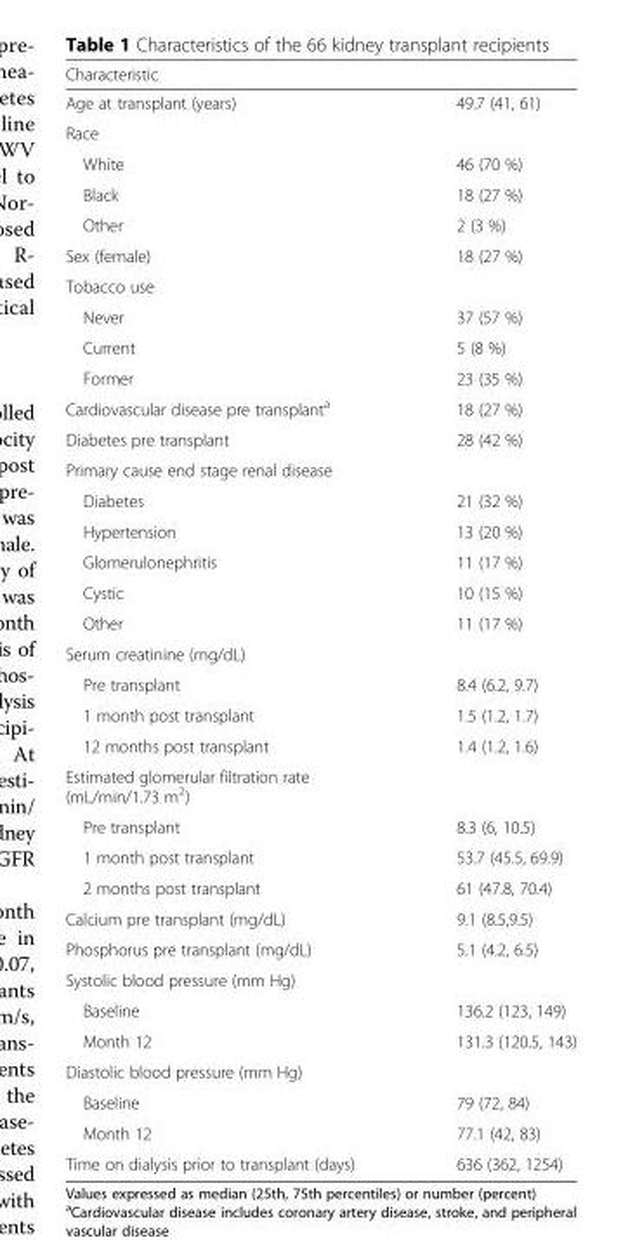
<table><thead><tr><td>Characteristic</td><td></td></tr></thead><tbody><tr><td>Age at transplant (years)</td><td>49.7 (41, 61)</td></tr><tr><td colspan="2">Race</td></tr><tr><td>White</td><td>46 (70 %)</td></tr><tr><td>Black</td><td>18 (27 %)</td></tr><tr><td>Other</td><td>2 (3 %)</td></tr><tr><td>Sex (female)</td><td>18 (27 %)</td></tr><tr><td colspan="2">Tobacco use</td></tr><tr><td>Never</td><td>37 (57 %)</td></tr><tr><td>Current</td><td>5 (8 %)</td></tr><tr><td>Former</td><td>23 (35 %)</td></tr><tr><td>Cardiovascular disease pre transplant<sup>a</sup></td><td>18 (27 %)</td></tr><tr><td>Diabetes pre transplant</td><td>28 (42 %)</td></tr><tr><td colspan="2">Primary cause end stage renal disease</td></tr><tr><td>Diabetes</td><td>21 (32 %)</td></tr><tr><td>Hypertension</td><td>13 (20 %)</td></tr><tr><td>Glomerulonephritis</td><td>11 (17 %)</td></tr><tr><td>Cystic</td><td>10 (15 %)</td></tr><tr><td>Other</td><td>11 (17 %)</td></tr><tr><td colspan="2">Serum creatinine (mg/dL)</td></tr><tr><td>Pre transplant</td><td>8.4 (6.2, 9.7)</td></tr><tr><td>1 month post transplant</td><td>1.5 (1.2, 1.7)</td></tr><tr><td>12 months post transplant</td><td>1.4 (1.2, 1.6)</td></tr><tr><td colspan="2">Estimated glomerular filtration rate (mL/min/1.73 m<sup>2</sup>)</td></tr><tr><td>Pre transplant</td><td>8.3 (6, 10.5)</td></tr><tr><td>1 month post transplant</td><td>53.7 (45.5, 69.9)</td></tr><tr><td>2 months post transplant</td><td>61 (47.8, 70.4)</td></tr><tr><td>Calcium pre transplant (mg/dL)</td><td>9.1 (8.5,9.5)</td></tr><tr><td>Phosphorus pre transplant (mg/dL)</td><td>5.1 (4.2, 6.5)</td></tr><tr><td colspan="2">Systolic blood pressure (mm Hg)</td></tr><tr><td>Baseline</td><td>136.2 (123, 149)</td></tr><tr><td>Month 12</td><td>131.3 (120.5, 143)</td></tr><tr><td colspan="2">Diastolic blood pressure (mm Hg)</td></tr><tr><td>Baseline</td><td>79 (72, 84)</td></tr><tr><td>Month 12</td><td>77.1 (42, 83)</td></tr><tr><td>Time on dialysis prior to transplant (days)</td><td>636 (362, 1254)</td></tr></tbody></table>